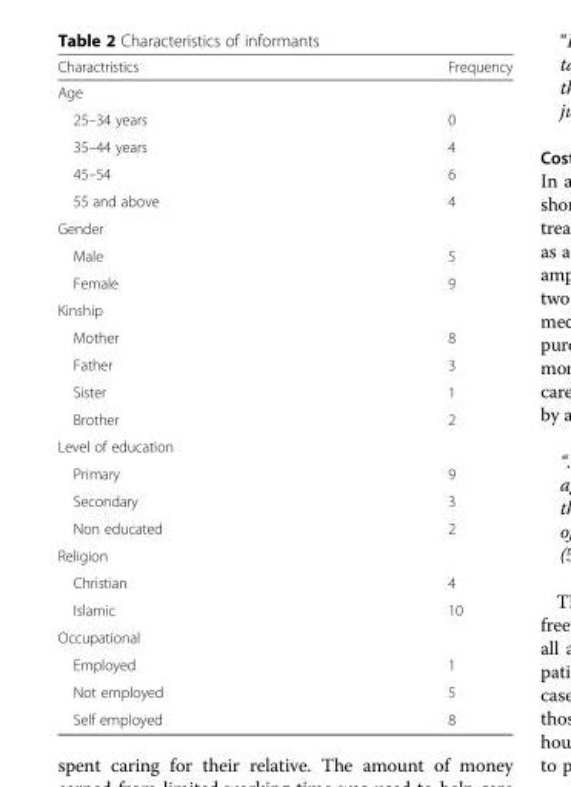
<table><thead><tr><td>Charactristics</td><td>Frequency</td></tr></thead><tbody><tr><td colspan="2">Age</td></tr><tr><td>25–34 years</td><td>0</td></tr><tr><td>35–44 years</td><td>4</td></tr><tr><td>45–54</td><td>6</td></tr><tr><td>55 and above</td><td>4</td></tr><tr><td colspan="2">Gender</td></tr><tr><td>Male</td><td>5</td></tr><tr><td>Female</td><td>9</td></tr><tr><td colspan="2">Kinship</td></tr><tr><td>Mother</td><td>8</td></tr><tr><td>Father</td><td>3</td></tr><tr><td>Sister</td><td>1</td></tr><tr><td>Brother</td><td>2</td></tr><tr><td colspan="2">Level of education</td></tr><tr><td>Primary</td><td>9</td></tr><tr><td>Secondary</td><td>3</td></tr><tr><td>Non educated</td><td>2</td></tr><tr><td colspan="2">Religion</td></tr><tr><td>Christian</td><td>4</td></tr><tr><td>Islamic</td><td>10</td></tr><tr><td colspan="2">Occupational</td></tr><tr><td>Employed</td><td>1</td></tr><tr><td>Not employed</td><td>5</td></tr><tr><td>Self employed</td><td>8</td></tr></tbody></table>